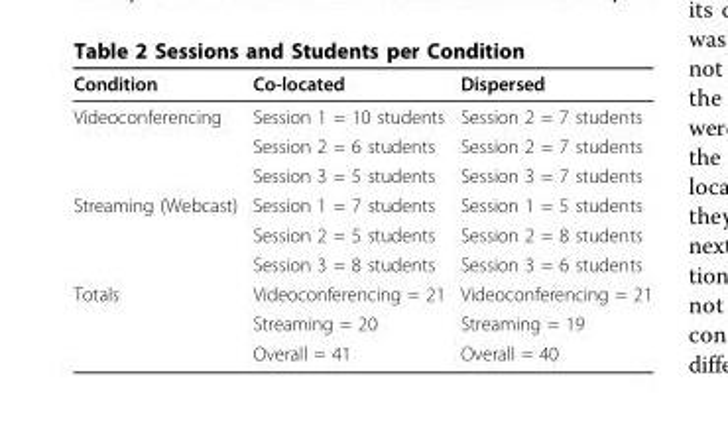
<table><thead><tr><td>Condition</td><td>Co-located</td><td>Dispersed</td></tr></thead><tbody><tr><td rowspan="3">Videoconferencing</td><td>Session 1 = 10 students</td><td>Session 2 = 7 students</td></tr><tr><td>Session 2 = 6 students</td><td>Session 2 = 7 students</td></tr><tr><td>Session 3 = 5 students</td><td>Session 3 = 7 students</td></tr><tr><td rowspan="3">Streaming (Webcast)</td><td>Session 1 = 7 students</td><td>Session 1 = 5 students</td></tr><tr><td>Session 2 = 5 students</td><td>Session 2 = 8 students</td></tr><tr><td>Session 3 = 8 students</td><td>Session 3 = 6 students</td></tr><tr><td rowspan="3">Totals</td><td>Videoconferencing = 21</td><td>Videoconferencing = 21</td></tr><tr><td>Streaming = 20</td><td>Streaming = 19</td></tr><tr><td>Overall = 41</td><td>Overall = 40</td></tr></tbody></table>